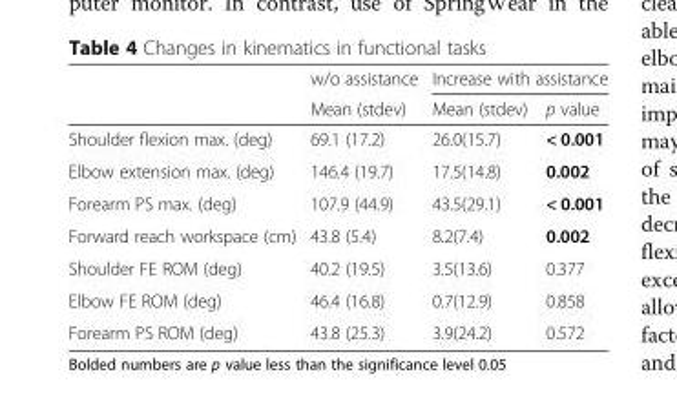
<table><thead><tr><td rowspan="2"></td><td rowspan="2">w/o assistance Mean (stdev)</td><td colspan="2">Increase with assistance</td></tr><tr><td>Mean (stdev)</td><td>p value</td></tr></thead><tbody><tr><td>Shoulder flexion max. (deg)</td><td>69.1 (17.2)</td><td>26.0(15.7)</td><td>&lt; 0.001</td></tr><tr><td>Elbow extension max. (deg)</td><td>146.4 (19.7)</td><td>17.5(14.8)</td><td>0.002</td></tr><tr><td>Forearm PS max. (deg)</td><td>107.9 (44.9)</td><td>43.5(29.1)</td><td>&lt; 0.001</td></tr><tr><td>Forward reach workspace (cm)</td><td>43.8 (5.4)</td><td>8.2(7.4)</td><td>0.002</td></tr><tr><td>Shoulder FE ROM (deg)</td><td>40.2 (19.5)</td><td>3.5(13.6)</td><td>0.377</td></tr><tr><td>Elbow FE ROM (deg)</td><td>46.4 (16.8)</td><td>0.7(12.9)</td><td>0.858</td></tr><tr><td>Forearm PS ROM (deg)</td><td>43.8 (25.3)</td><td>3.9(24.2)</td><td>0.572</td></tr></tbody></table>